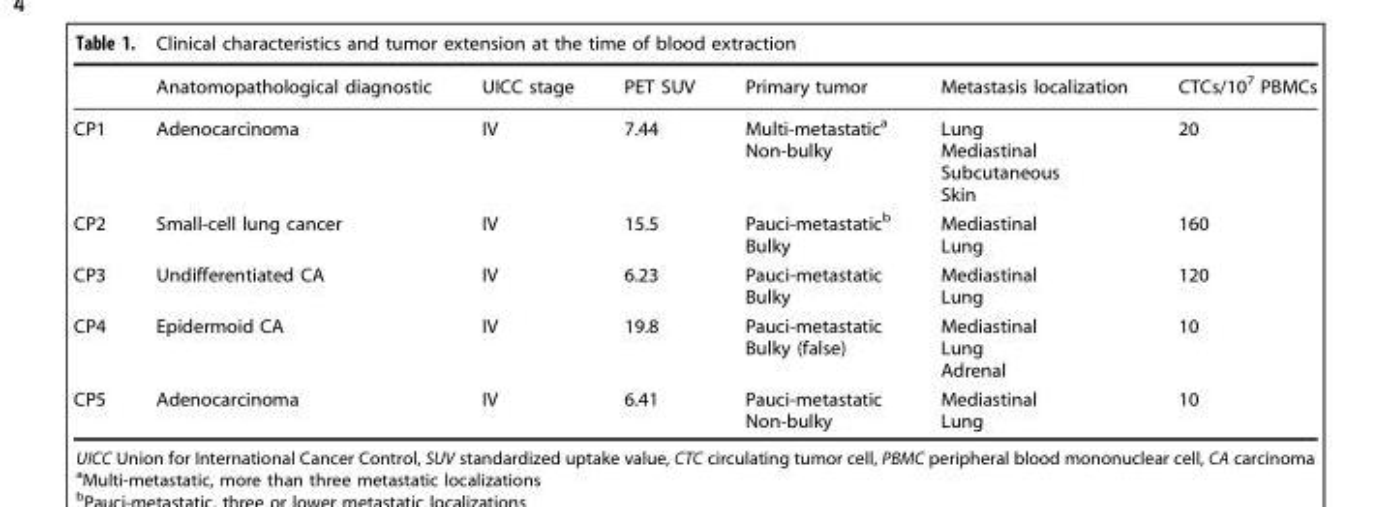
<table><thead><tr><td></td><td>Anatomopathological diagnostic</td><td>UICC stage</td><td>PET SUV</td><td>Primary tumor</td><td>Metastasis localization</td><td>CTCs/10<sup>7</sup> PBMCs</td></tr></thead><tbody><tr><td>CP1</td><td>Adenocarcinoma</td><td>IV</td><td>7.44</td><td>Multi-metastatic<sup>a</sup> Non-bulky</td><td>Lung Mediastinal Subcutaneous Skin</td><td>20</td></tr><tr><td>CP2</td><td>Small-cell lung cancer</td><td>IV</td><td>15.5</td><td>Pauci-metastatic<sup>b</sup> Bulky</td><td>Mediastinal Lung</td><td>160</td></tr><tr><td>CP3</td><td>Undifferentiated CA</td><td>IV</td><td>6.23</td><td>Pauci-metastatic Bulky</td><td>Mediastinal Lung</td><td>120</td></tr><tr><td>CP4</td><td>Epidermoid CA</td><td>IV</td><td>19.8</td><td>Pauci-metastatic Bulky (false)</td><td>Mediastinal Lung Adrenal</td><td>10</td></tr><tr><td>CP5</td><td>Adenocarcinoma</td><td>IV</td><td>6.41</td><td>Pauci-metastatic Non-bulky</td><td>Mediastinal Lung</td><td>10</td></tr></tbody></table>